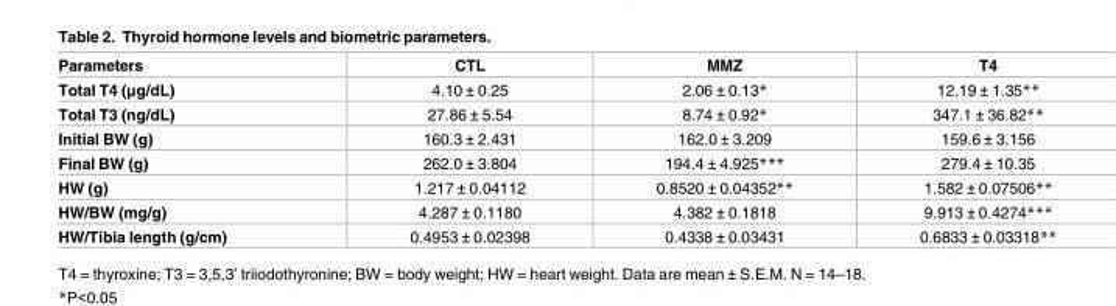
<table><thead><tr><td>Parameters</td><td>CTL</td><td>MMZ</td><td>T4</td></tr></thead><tbody><tr><td>Total T4 (μg/dL)</td><td>4.10 ± 0.25</td><td>2.06 ± 0.13*</td><td>12.19 ± 1.35**</td></tr><tr><td>Total T3 (ng/dL)</td><td>27.86 ± 5.54</td><td>8.74 ± 0.92*</td><td>347.1 ± 36.82**</td></tr><tr><td>Initial BW (g)</td><td>160.3 ± 2.431</td><td>162.0 ± 3.209</td><td>159.6 ± 3.156</td></tr><tr><td>Final BW (g)</td><td>262.0 ± 3.804</td><td>194.4 ± 4.925***</td><td>279.4 ± 10.35</td></tr><tr><td>HW (g)</td><td>1.217 ± 0.04112</td><td>0.8520 ± 0.04352**</td><td>1.582 ± 0.07506**</td></tr><tr><td>HW/BW (mg/g)</td><td>4.287 ± 0.1180</td><td>4.382 ± 0.1818</td><td>9.913 ± 0.4274***</td></tr><tr><td>HW/Tibia length (g/cm)</td><td>0.4953 ± 0.02398</td><td>0.4338 ± 0.03431</td><td>0.6833 ± 0.03318**</td></tr></tbody></table>